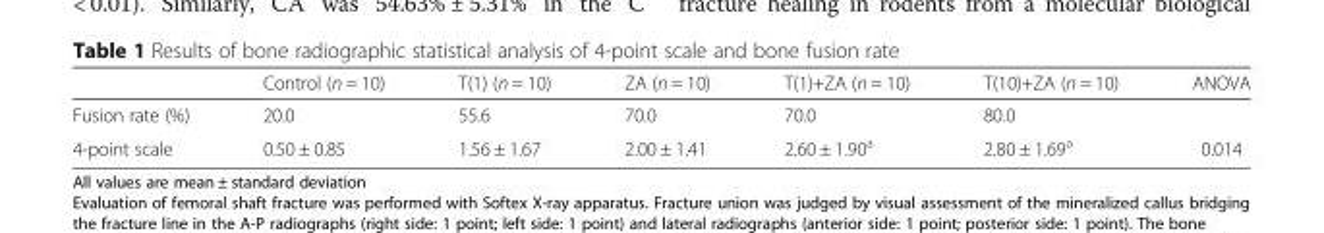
<table><thead><tr><td></td><td>Control (n = 10)</td><td>T(1) (n = 10)</td><td>ZA (n = 10)</td><td>T(1)+ZA (n = 10)</td><td>T(10)+ZA (n = 10)</td><td>ANOVA</td></tr></thead><tbody><tr><td>Fusion rate (%)</td><td>20.0</td><td>55.6</td><td>70.0</td><td>70.0</td><td>80.0</td><td></td></tr><tr><td>4-point scale</td><td>0.50 ± 0.85</td><td>1.56 ± 1.67</td><td>2.00 ± 1.41</td><td>2.60 ± 1.90<sup>a</sup></td><td>2.80 ± 1.69<sup>a</sup></td><td>0.014</td></tr></tbody></table>